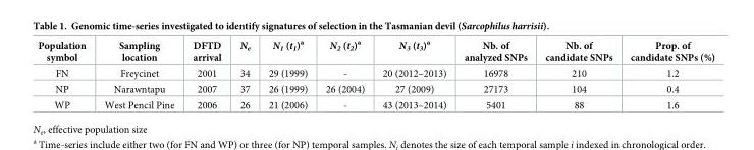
<table><thead><tr><td>Population symbol</td><td>Sampling location</td><td>DFTD arrival</td><td>N<sub>e</sub></td><td>N<sub>1</sub> (t<sub>1</sub>)<sup>a</sup></td><td>N<sub>2</sub> (t<sub>2</sub>)<sup>a</sup></td><td>N<sub>3</sub> (t<sub>3</sub>)<sup>a</sup></td><td>Nb. of analyzed SNPs</td><td>Nb. of candidate SNPs</td><td>Prop. of candidate SNPs (%)</td></tr></thead><tbody><tr><td>FN</td><td>Freycinet</td><td>2001</td><td>34</td><td>29 (1999)</td><td>-</td><td>20 (2012–2013)</td><td>16978</td><td>210</td><td>1.2</td></tr><tr><td>NP</td><td>Narawntapu</td><td>2007</td><td>37</td><td>26 (1999)</td><td>26 (2004)</td><td>27 (2009)</td><td>27173</td><td>104</td><td>0.4</td></tr><tr><td>WP</td><td>West Pencil Pine</td><td>2006</td><td>26</td><td>21 (2006)</td><td>-</td><td>43 (2013–2014)</td><td>5401</td><td>88</td><td>1.6</td></tr></tbody></table>